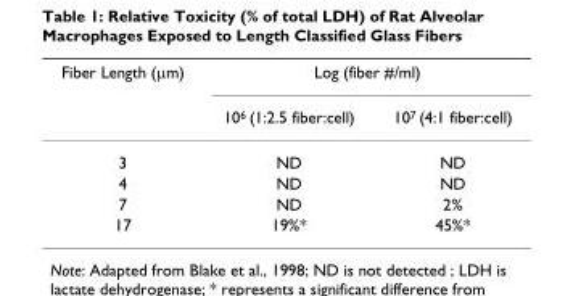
<table><thead><tr><td rowspan="2">Fiber Length (µm)</td><td colspan="2">Log (fiber #/ml)</td></tr><tr><td>10<sup>6</sup> (1:2.5 fiber:cell)</td><td>10<sup>7</sup> (4:1 fiber:cell)</td></tr></thead><tbody><tr><td>3</td><td>ND</td><td>ND</td></tr><tr><td>4</td><td>ND</td><td>ND</td></tr><tr><td>7</td><td>ND</td><td>2%</td></tr><tr><td>17</td><td>19%*</td><td>45%*</td></tr></tbody></table>